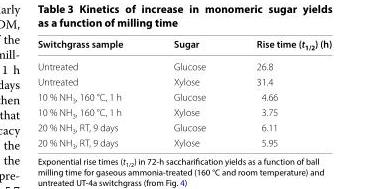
<table><thead><tr><td>Switchgrass sample</td><td>Sugar</td><td>Rise time (t<sub>1/2</sub>) (h)</td></tr></thead><tbody><tr><td>Untreated</td><td>Glucose</td><td>26.8</td></tr><tr><td>Untreated</td><td>Xylose</td><td>31.4</td></tr><tr><td>10 % NH<sub>3</sub>, 160 °C, 1 h</td><td>Glucose</td><td>4.66</td></tr><tr><td>10 % NH<sub>3</sub>, 160 °C, 1 h</td><td>Xylose</td><td>3.75</td></tr><tr><td>20 % NH<sub>3</sub>, RT, 9 days</td><td>Glucose</td><td>6.11</td></tr><tr><td>20 % NH<sub>3</sub>, RT, 9 days</td><td>Xylose</td><td>5.95</td></tr></tbody></table>